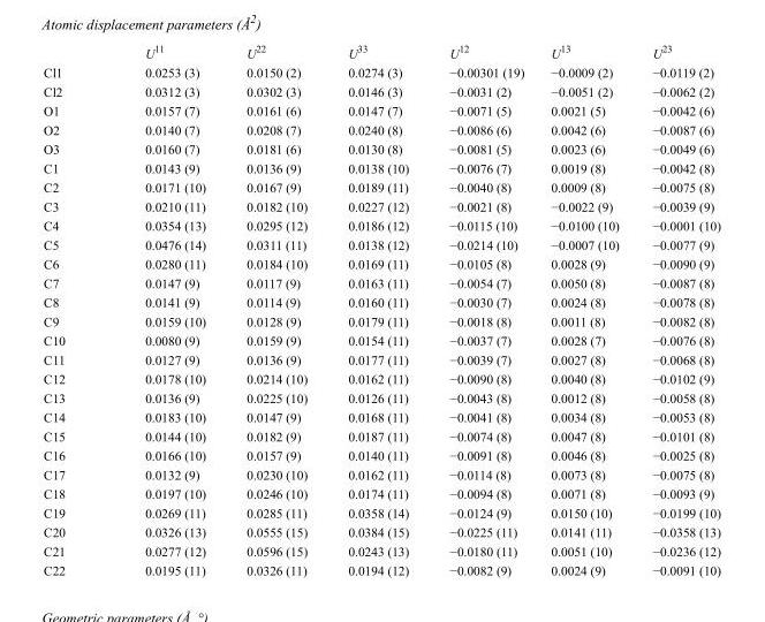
<table><thead><tr><td></td><td>U<sup>11</sup></td><td>U<sup>22</sup></td><td>U<sup>33</sup></td><td>U<sup>12</sup></td><td>U<sup>13</sup></td><td>U<sup>23</sup></td></tr></thead><tbody><tr><td>Cl1</td><td>0.0253 (3)</td><td>0.0150 (2)</td><td>0.0274 (3)</td><td>−0.00301 (19)</td><td>−0.0009 (2)</td><td>−0.0119 (2)</td></tr><tr><td>Cl2</td><td>0.0312 (3)</td><td>0.0302 (3)</td><td>0.0146 (3)</td><td>−0.0031 (2)</td><td>−0.0051 (2)</td><td>−0.0062 (2)</td></tr><tr><td>O1</td><td>0.0157 (7)</td><td>0.0161 (6)</td><td>0.0147 (7)</td><td>−0.0071 (5)</td><td>0.0021 (5)</td><td>−0.0042 (6)</td></tr><tr><td>O2</td><td>0.0140 (7)</td><td>0.0208 (7)</td><td>0.0240 (8)</td><td>−0.0086 (6)</td><td>0.0042 (6)</td><td>−0.0087 (6)</td></tr><tr><td>O3</td><td>0.0160 (7)</td><td>0.0181 (6)</td><td>0.0130 (8)</td><td>−0.0081 (5)</td><td>0.0023 (6)</td><td>−0.0049 (6)</td></tr><tr><td>C1</td><td>0.0143 (9)</td><td>0.0136 (9)</td><td>0.0138 (10)</td><td>−0.0076 (7)</td><td>0.0019 (8)</td><td>−0.0042 (8)</td></tr><tr><td>C2</td><td>0.0171 (10)</td><td>0.0167 (9)</td><td>0.0189 (11)</td><td>−0.0040 (8)</td><td>0.0009 (8)</td><td>−0.0075 (8)</td></tr><tr><td>C3</td><td>0.0210 (11)</td><td>0.0182 (10)</td><td>0.0227 (12)</td><td>−0.0021 (8)</td><td>−0.0022 (9)</td><td>−0.0039 (9)</td></tr><tr><td>C4</td><td>0.0354 (13)</td><td>0.0295 (12)</td><td>0.0186 (12)</td><td>−0.0115 (10)</td><td>−0.0100 (10)</td><td>−0.0001 (10)</td></tr><tr><td>C5</td><td>0.0476 (14)</td><td>0.0311 (11)</td><td>0.0138 (12)</td><td>−0.0214 (10)</td><td>−0.0007 (10)</td><td>−0.0077 (9)</td></tr><tr><td>C6</td><td>0.0280 (11)</td><td>0.0184 (10)</td><td>0.0169 (11)</td><td>−0.0105 (8)</td><td>0.0028 (9)</td><td>−0.0090 (9)</td></tr><tr><td>C7</td><td>0.0147 (9)</td><td>0.0117 (9)</td><td>0.0163 (11)</td><td>−0.0054 (7)</td><td>0.0050 (8)</td><td>−0.0087 (8)</td></tr><tr><td>C8</td><td>0.0141 (9)</td><td>0.0114 (9)</td><td>0.0160 (11)</td><td>−0.0030 (7)</td><td>0.0024 (8)</td><td>−0.0078 (8)</td></tr><tr><td>C9</td><td>0.0159 (10)</td><td>0.0128 (9)</td><td>0.0179 (11)</td><td>−0.0018 (8)</td><td>0.0011 (8)</td><td>−0.0082 (8)</td></tr><tr><td>C10</td><td>0.0080 (9)</td><td>0.0159 (9)</td><td>0.0154 (11)</td><td>−0.0037 (7)</td><td>0.0028 (7)</td><td>−0.0076 (8)</td></tr><tr><td>C11</td><td>0.0127 (9)</td><td>0.0136 (9)</td><td>0.0177 (11)</td><td>−0.0039 (7)</td><td>0.0027 (8)</td><td>−0.0068 (8)</td></tr><tr><td>C12</td><td>0.0178 (10)</td><td>0.0214 (10)</td><td>0.0162 (11)</td><td>−0.0090 (8)</td><td>0.0040 (8)</td><td>−0.0102 (9)</td></tr><tr><td>C13</td><td>0.0136 (9)</td><td>0.0225 (10)</td><td>0.0126 (11)</td><td>−0.0043 (8)</td><td>0.0012 (8)</td><td>−0.0058 (8)</td></tr><tr><td>C14</td><td>0.0183 (10)</td><td>0.0147 (9)</td><td>0.0168 (11)</td><td>−0.0041 (8)</td><td>0.0034 (8)</td><td>−0.0053 (8)</td></tr><tr><td>C15</td><td>0.0144 (10)</td><td>0.0182 (9)</td><td>0.0187 (11)</td><td>−0.0074 (8)</td><td>0.0047 (8)</td><td>−0.0101 (8)</td></tr><tr><td>C16</td><td>0.0166 (10)</td><td>0.0157 (9)</td><td>0.0140 (11)</td><td>−0.0091 (8)</td><td>0.0046 (8)</td><td>−0.0025 (8)</td></tr><tr><td>C17</td><td>0.0132 (9)</td><td>0.0230 (10)</td><td>0.0162 (11)</td><td>−0.0114 (8)</td><td>0.0073 (8)</td><td>−0.0075 (8)</td></tr><tr><td>C18</td><td>0.0197 (10)</td><td>0.0246 (10)</td><td>0.0174 (11)</td><td>−0.0094 (8)</td><td>0.0071 (8)</td><td>−0.0093 (9)</td></tr><tr><td>C19</td><td>0.0269 (11)</td><td>0.0285 (11)</td><td>0.0358 (14)</td><td>−0.0124 (9)</td><td>0.0150 (10)</td><td>−0.0199 (10)</td></tr><tr><td>C20</td><td>0.0326 (13)</td><td>0.0555 (15)</td><td>0.0384 (15)</td><td>−0.0225 (11)</td><td>0.0141 (11)</td><td>−0.0358 (13)</td></tr><tr><td>C21</td><td>0.0277 (12)</td><td>0.0596 (15)</td><td>0.0243 (13)</td><td>−0.0180 (11)</td><td>0.0051 (10)</td><td>−0.0236 (12)</td></tr><tr><td>C22</td><td>0.0195 (11)</td><td>0.0326 (11)</td><td>0.0194 (12)</td><td>−0.0082 (9)</td><td>0.0024 (9)</td><td>−0.0091 (10)</td></tr></tbody></table>